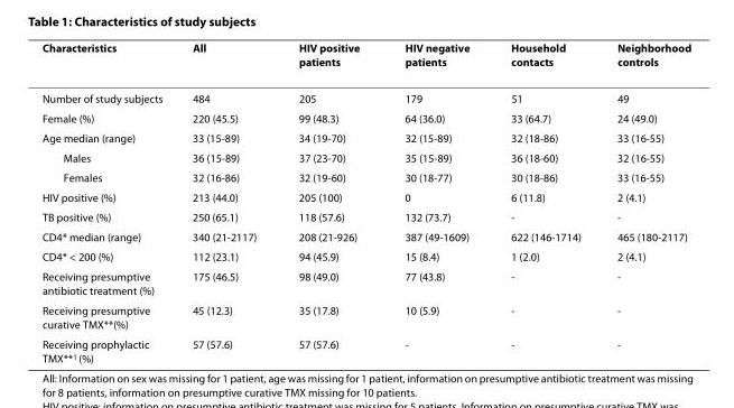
<table><thead><tr><td>Characteristics</td><td>All</td><td>HIV positive patients</td><td>HIV negative patients</td><td>Household contacts</td><td>Neighborhood controls</td></tr></thead><tbody><tr><td>Number of study subjects</td><td>484</td><td>205</td><td>179</td><td>51</td><td>49</td></tr><tr><td>Female (%)</td><td>220 (45.5)</td><td>99 (48.3)</td><td>64 (36.0)</td><td>33 (64.7)</td><td>24 (49.0)</td></tr><tr><td>Age median (range)</td><td>33 (15-89)</td><td>34 (19-70)</td><td>32 (15-89)</td><td>32 (18-86)</td><td>33 (16-55)</td></tr><tr><td>Males</td><td>36 (15-89)</td><td>37 (23-70)</td><td>35 (15-89)</td><td>36 (18-60)</td><td>32 (16-55)</td></tr><tr><td>Females</td><td>32 (16-86)</td><td>32 (19-60)</td><td>30 (18-77)</td><td>30 (18-86)</td><td>33 (16-55)</td></tr><tr><td>HIV positive (%)</td><td>213 (44.0)</td><td>205 (100)</td><td>0</td><td>6 (11.8)</td><td>2 (4.1)</td></tr><tr><td>TB positive (%)</td><td>250 (65.1)</td><td>118 (57.6)</td><td>132 (73.7)</td><td>-</td><td>-</td></tr><tr><td>CD4* median (range)</td><td>340 (21-2117)</td><td>208 (21-926)</td><td>387 (49-1609)</td><td>622 (146-1714)</td><td>465 (180-2117)</td></tr><tr><td>CD4* &lt; 200 (%)</td><td>112 (23.1)</td><td>94 (45.9)</td><td>15 (8.4)</td><td>1 (2.0)</td><td>2 (4.1)</td></tr><tr><td>Receiving presumptive antibiotic treatment (%)</td><td>175 (46.5)</td><td>98 (49.0)</td><td>77 (43.8)</td><td>-</td><td>-</td></tr><tr><td>Receiving presumptive curative TMX**(%)</td><td>45 (12.3)</td><td>35 (17.8)</td><td>10 (5.9)</td><td>-</td><td>-</td></tr><tr><td>Receiving prophylactic TMX**<sup>1</sup> (%)</td><td>57 (57.6)</td><td>57 (57.6)</td><td>-</td><td>-</td><td>-</td></tr></tbody></table>